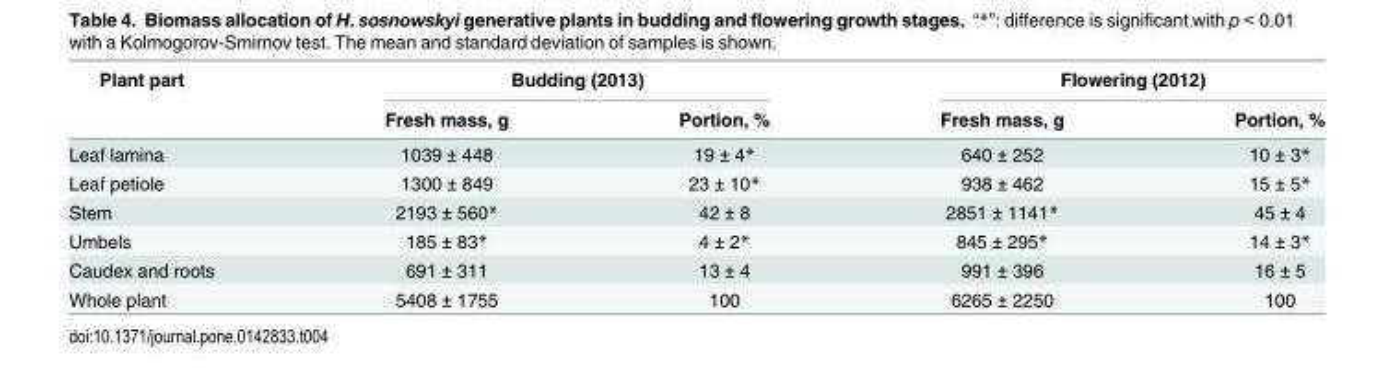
<table><thead><tr><td rowspan="2">Plant part</td><td colspan="2">Budding (2013)</td><td colspan="2">Flowering (2012)</td></tr><tr><td>Fresh mass, g</td><td>Portion, %</td><td>Fresh mass, g</td><td>Portion, %</td></tr></thead><tbody><tr><td>Leaf lamina</td><td>1039 ± 448</td><td>19 ± 4*</td><td>640 ± 252</td><td>10 ± 3*</td></tr><tr><td>Leaf petiole</td><td>1300 ± 849</td><td>23 ± 10*</td><td>938 ± 462</td><td>15 ± 5*</td></tr><tr><td>Stem</td><td>2193 ± 560*</td><td>42 ± 8</td><td>2851 ± 1141*</td><td>45 ± 4</td></tr><tr><td>Umbels</td><td>185 ± 83*</td><td>4 ± 2*</td><td>845 ± 295*</td><td>14 ± 3*</td></tr><tr><td>Caudex and roots</td><td>691 ± 311</td><td>13 ± 4</td><td>991 ± 396</td><td>16 ± 5</td></tr><tr><td>Whole plant</td><td>5408 ± 1755</td><td>100</td><td>6265 ± 2250</td><td>100</td></tr></tbody></table>